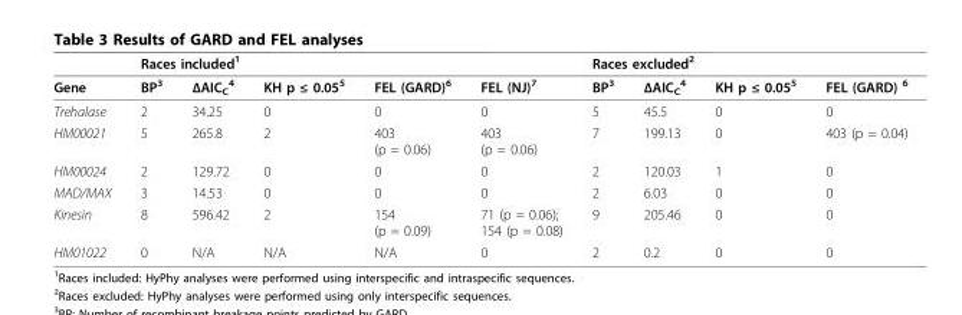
<table><thead><tr><td rowspan="2">Gene</td><td colspan="5">Races included<sup>1</sup></td><td colspan="4">Races excluded<sup>2</sup></td></tr><tr><td>BP<sup>3</sup></td><td>ΔAIC<sub>C</sub> <sup>4</sup></td><td>KH p ≤ 0.05<sup>5</sup></td><td>FEL (GARD)<sup>6</sup></td><td>FEL (NJ)<sup>7</sup></td><td>BP<sup>3</sup></td><td>ΔAIC<sub>C</sub> <sup>4</sup></td><td>KH p ≤ 0.05<sup>5</sup></td><td>FEL (GARD) <sup>6</sup></td></tr></thead><tbody><tr><td>Trehalase</td><td>2</td><td>34.25</td><td>0</td><td>0</td><td>0</td><td>5</td><td>45.5</td><td>0</td><td>0</td></tr><tr><td>HM00021</td><td>5</td><td>265.8</td><td>2</td><td>403 (p = 0.06)</td><td>403 (p = 0.06)</td><td>7</td><td>199.13</td><td>0</td><td>403 (p = 0.04)</td></tr><tr><td>HM00024</td><td>2</td><td>129.72</td><td>0</td><td>0</td><td>0</td><td>2</td><td>120.03</td><td>1</td><td>0</td></tr><tr><td>MAD/MAX</td><td>3</td><td>14.53</td><td>0</td><td>0</td><td>0</td><td>2</td><td>6.03</td><td>0</td><td>0</td></tr><tr><td>Kinesin</td><td>8</td><td>596.42</td><td>2</td><td>154 (p = 0.09)</td><td>71 (p = 0.06); 154 (p = 0.08)</td><td>9</td><td>205.46</td><td>0</td><td>0</td></tr><tr><td>HM01022</td><td>0</td><td>N/A</td><td>N/A</td><td>N/A</td><td>0</td><td>2</td><td>0.2</td><td>0</td><td>0</td></tr></tbody></table>